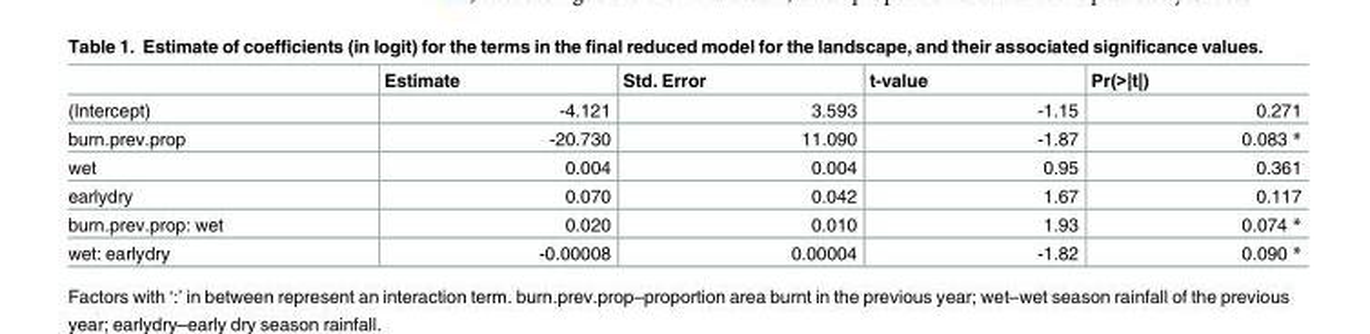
<table><thead><tr><td></td><td>Estimate</td><td>Std. Error</td><td>t-value</td><td>Pr(&gt;|t|)</td></tr></thead><tbody><tr><td>(Intercept)</td><td>-4.121</td><td>3.593</td><td>-1.15</td><td>0.271</td></tr><tr><td>burn.prev.prop</td><td>-20.730</td><td>11.090</td><td>-1.87</td><td>0.083 *</td></tr><tr><td>wet</td><td>0.004</td><td>0.004</td><td>0.95</td><td>0.361</td></tr><tr><td>earlydry</td><td>0.070</td><td>0.042</td><td>1.67</td><td>0.117</td></tr><tr><td>burn.prev.prop: wet</td><td>0.020</td><td>0.010</td><td>1.93</td><td>0.074 *</td></tr><tr><td>wet: earlydry</td><td>-0.00008</td><td>0.00004</td><td>-1.82</td><td>0.090 *</td></tr></tbody></table>